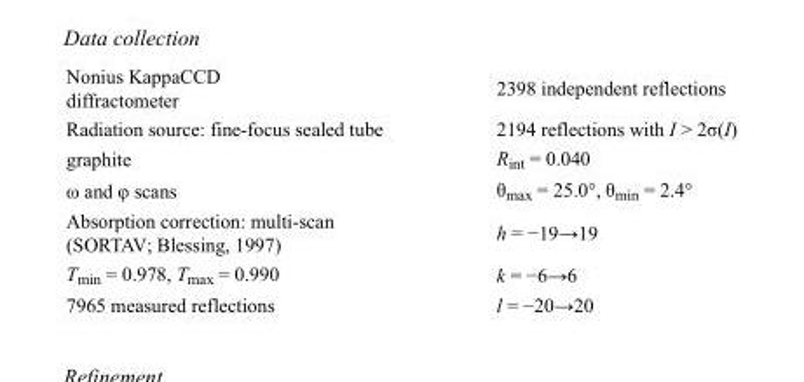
<table><tbody><tr><td>Nonius KappaCCD diffractometer</td><td>2398 independent reflections</td></tr><tr><td>Radiation source: fine-focus sealed tube</td><td>2194 reflections with I &gt; 2σ(I)</td></tr><tr><td>graphite</td><td>R<sub>int</sub> = 0.040</td></tr><tr><td>ω and φ scans</td><td>θ<sub>max</sub> = 25.0°, θ<sub>min</sub> = 2.4°</td></tr><tr><td>Absorption correction: multi-scan (SORTAV; Blessing, 1997)</td><td>h = −19→19</td></tr><tr><td>T<sub>min</sub> = 0.978, T<sub>max</sub> = 0.990</td><td>k = −6→6</td></tr><tr><td>7965 measured reflections</td><td>l = −20→20</td></tr></tbody></table>